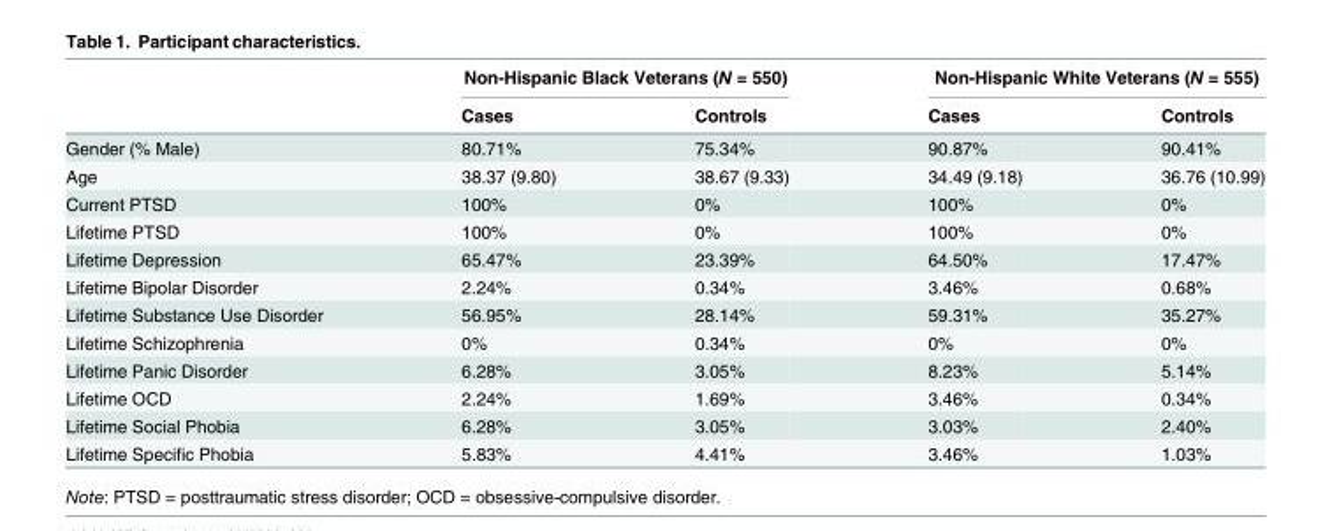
<table><thead><tr><td rowspan="2"></td><td colspan="2">Non-Hispanic Black Veterans (N = 550)</td><td colspan="2">Non-Hispanic White Veterans (N = 555)</td></tr><tr><td>Cases</td><td>Controls</td><td>Cases</td><td>Controls</td></tr></thead><tbody><tr><td>Gender (% Male)</td><td>80.71%</td><td>75.34%</td><td>90.87%</td><td>90.41%</td></tr><tr><td>Age</td><td>38.37 (9.80)</td><td>38.67 (9.33)</td><td>34.49 (9.18)</td><td>36.76 (10.99)</td></tr><tr><td>Current PTSD</td><td>100%</td><td>0%</td><td>100%</td><td>0%</td></tr><tr><td>Lifetime PTSD</td><td>100%</td><td>0%</td><td>100%</td><td>0%</td></tr><tr><td>Lifetime Depression</td><td>65.47%</td><td>23.39%</td><td>64.50%</td><td>17.47%</td></tr><tr><td>Lifetime Bipolar Disorder</td><td>2.24%</td><td>0.34%</td><td>3.46%</td><td>0.68%</td></tr><tr><td>Lifetime Substance Use Disorder</td><td>56.95%</td><td>28.14%</td><td>59.31%</td><td>35.27%</td></tr><tr><td>Lifetime Schizophrenia</td><td>0%</td><td>0.34%</td><td>0%</td><td>0%</td></tr><tr><td>Lifetime Panic Disorder</td><td>6.28%</td><td>3.05%</td><td>8.23%</td><td>5.14%</td></tr><tr><td>Lifetime OCD</td><td>2.24%</td><td>1.69%</td><td>3.46%</td><td>0.34%</td></tr><tr><td>Lifetime Social Phobia</td><td>6.28%</td><td>3.05%</td><td>3.03%</td><td>2.40%</td></tr><tr><td>Lifetime Specific Phobia</td><td>5.83%</td><td>4.41%</td><td>3.46%</td><td>1.03%</td></tr></tbody></table>